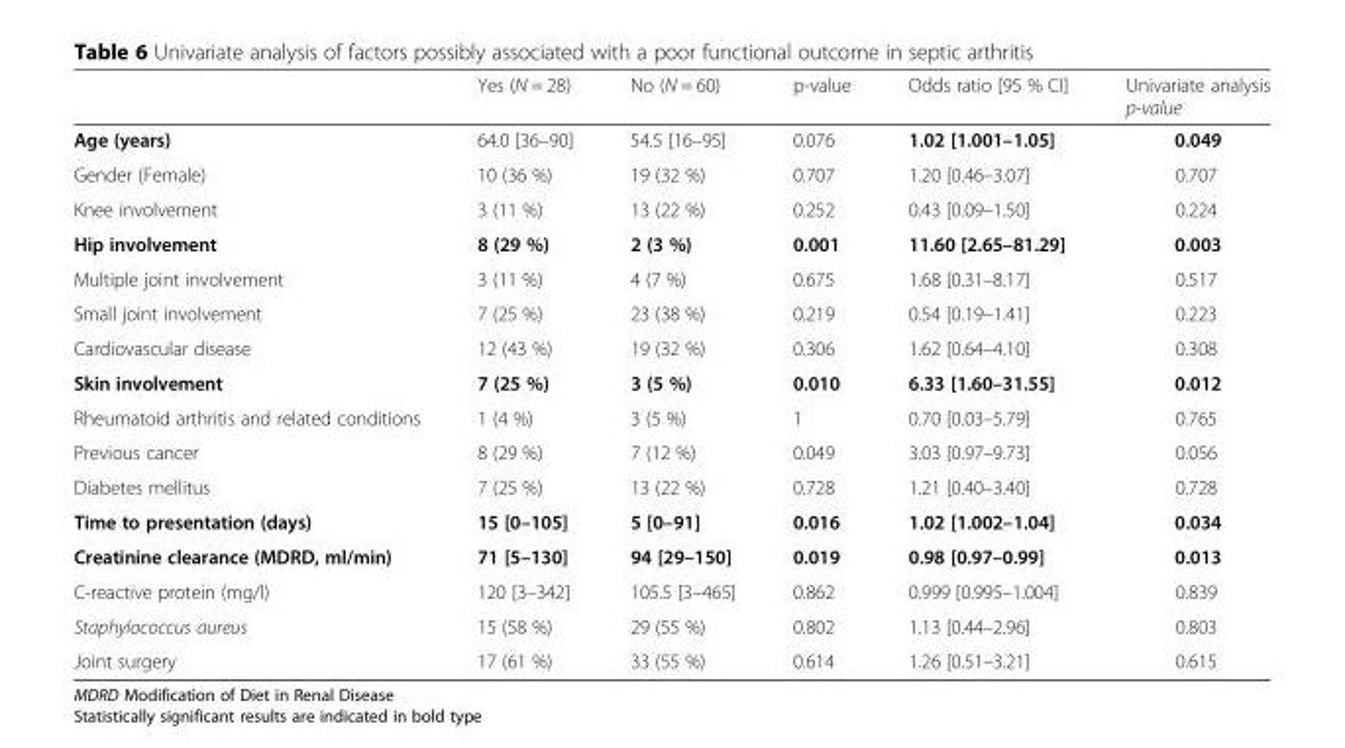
<table><thead><tr><td></td><td>Yes (N = 28)</td><td>No (N = 60)</td><td>p-value</td><td>Odds ratio [95 % CI]</td><td>Univariate analysis p-value</td></tr></thead><tbody><tr><td>Age (years)</td><td>64.0 [36–90]</td><td>54.5 [16–95]</td><td>0.076</td><td>1.02 [1.001–1.05]</td><td>0.049</td></tr><tr><td>Gender (Female)</td><td>10 (36 %)</td><td>19 (32 %)</td><td>0.707</td><td>1.20 [0.46–3.07]</td><td>0.707</td></tr><tr><td>Knee involvement</td><td>3 (11 %)</td><td>13 (22 %)</td><td>0.252</td><td>0.43 [0.09–1.50]</td><td>0.224</td></tr><tr><td>Hip involvement</td><td>8 (29 %)</td><td>2 (3 %)</td><td>0.001</td><td>11.60 [2.65–81.29]</td><td>0.003</td></tr><tr><td>Multiple joint involvement</td><td>3 (11 %)</td><td>4 (7 %)</td><td>0.675</td><td>1.68 [0.31–8.17]</td><td>0.517</td></tr><tr><td>Small joint involvement</td><td>7 (25 %)</td><td>23 (38 %)</td><td>0.219</td><td>0.54 [0.19–1.41]</td><td>0.223</td></tr><tr><td>Cardiovascular disease</td><td>12 (43 %)</td><td>19 (32 %)</td><td>0.306</td><td>1.62 [0.64–4.10]</td><td>0.308</td></tr><tr><td>Skin involvement</td><td>7 (25 %)</td><td>3 (5 %)</td><td>0.010</td><td>6.33 [1.60–31.55]</td><td>0.012</td></tr><tr><td>Rheumatoid arthritis and related conditions</td><td>1 (4 %)</td><td>3 (5 %)</td><td>1</td><td>0.70 [0.03–5.79]</td><td>0.765</td></tr><tr><td>Previous cancer</td><td>8 (29 %)</td><td>7 (12 %)</td><td>0.049</td><td>3.03 [0.97–9.73]</td><td>0.056</td></tr><tr><td>Diabetes mellitus</td><td>7 (25 %)</td><td>13 (22 %)</td><td>0.728</td><td>1.21 [0.40–3.40]</td><td>0.728</td></tr><tr><td>Time to presentation (days)</td><td>15 [0–105]</td><td>5 [0–91]</td><td>0.016</td><td>1.02 [1.002–1.04]</td><td>0.034</td></tr><tr><td>Creatinine clearance (MDRD, ml/min)</td><td>71 [5–130]</td><td>94 [29–150]</td><td>0.019</td><td>0.98 [0.97–0.99]</td><td>0.013</td></tr><tr><td>C-reactive protein (mg/l)</td><td>120 [3–342]</td><td>105.5 [3–465]</td><td>0.862</td><td>0.999 [0.995–1.004]</td><td>0.839</td></tr><tr><td>Staphylococcus aureus</td><td>15 (58 %)</td><td>29 (55 %)</td><td>0.802</td><td>1.13 [0.44–2.96]</td><td>0.803</td></tr><tr><td>Joint surgery</td><td>17 (61 %)</td><td>33 (55 %)</td><td>0.614</td><td>1.26 [0.51–3.21]</td><td>0.615</td></tr></tbody></table>